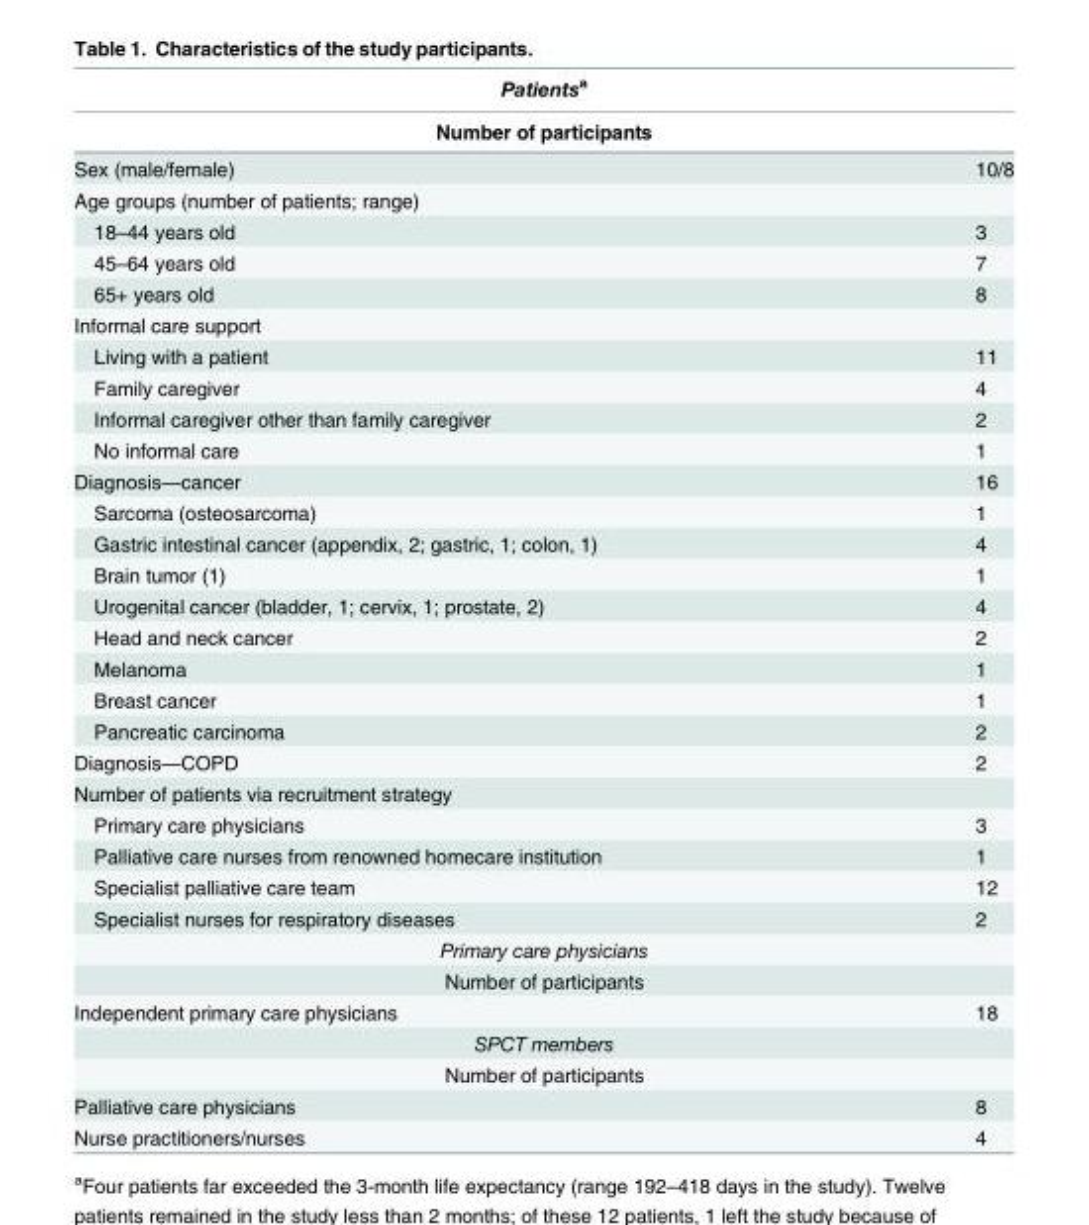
<table><thead><tr><td rowspan="2" colspan="2">Patients<sup>a</sup> Number of participants</td></tr><tr></tr><tr><td>Sex (male/female)</td><td>10/8</td></tr></thead><tbody><tr><td colspan="2">Age groups (number of patients; range)</td></tr><tr><td>18–44 years old</td><td>3</td></tr><tr><td>45–64 years old</td><td>7</td></tr><tr><td>65+ years old</td><td>8</td></tr><tr><td colspan="2">Informal care support</td></tr><tr><td>Living with a patient</td><td>11</td></tr><tr><td>Family caregiver</td><td>4</td></tr><tr><td>Informal caregiver other than family caregiver</td><td>2</td></tr><tr><td>No informal care</td><td>1</td></tr><tr><td>Diagnosis—cancer</td><td>16</td></tr><tr><td>Sarcoma (osteosarcoma)</td><td>1</td></tr><tr><td>Gastric intestinal cancer (appendix, 2; gastric, 1; colon, 1)</td><td>4</td></tr><tr><td>Brain tumor (1)</td><td>1</td></tr><tr><td>Urogenital cancer (bladder, 1; cervix, 1; prostate, 2)</td><td>4</td></tr><tr><td>Head and neck cancer</td><td>2</td></tr><tr><td>Melanoma</td><td>1</td></tr><tr><td>Breast cancer</td><td>1</td></tr><tr><td>Pancreatic carcinoma</td><td>2</td></tr><tr><td>Diagnosis—COPD</td><td>2</td></tr><tr><td colspan="2">Number of patients via recruitment strategy</td></tr><tr><td>Primary care physicians</td><td>3</td></tr><tr><td>Palliative care nurses from renowned homecare institution</td><td>1</td></tr><tr><td>Specialist palliative care team</td><td>12</td></tr><tr><td>Specialist nurses for respiratory diseases</td><td>2</td></tr><tr><td colspan="2">Primary care physicians</td></tr><tr><td colspan="2">Number of participants</td></tr><tr><td>Independent primary care physicians</td><td>18</td></tr><tr><td colspan="2">SPCT members</td></tr><tr><td colspan="2">Number of participants</td></tr><tr><td>Palliative care physicians</td><td>8</td></tr><tr><td>Nurse practitioners/nurses</td><td>4</td></tr></tbody></table>